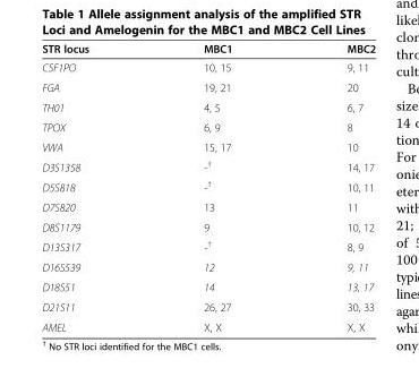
<table><thead><tr><td>STR locus</td><td>MBC1</td><td>MBC2</td></tr></thead><tbody><tr><td>CSF1PO</td><td>10, 15</td><td>9, 11</td></tr><tr><td>FGA</td><td>19, 21</td><td>20</td></tr><tr><td>TH01</td><td>4, 5</td><td>6, 7</td></tr><tr><td>TPOX</td><td>6, 9</td><td>8</td></tr><tr><td>VWA</td><td>15, 17</td><td>10</td></tr><tr><td>D3S1358</td><td>-<sup>†</sup></td><td>14, 17</td></tr><tr><td>D5S818</td><td>-<sup>†</sup></td><td>10, 11</td></tr><tr><td>D7S820</td><td>13</td><td>11</td></tr><tr><td>D8S1179</td><td>9</td><td>10, 12</td></tr><tr><td>D13S317</td><td>-<sup>†</sup></td><td>8, 9</td></tr><tr><td>D16S539</td><td>12</td><td>9, 11</td></tr><tr><td>D18S51</td><td>14</td><td>13, 17</td></tr><tr><td>D21S11</td><td>26, 27</td><td>30, 33</td></tr><tr><td>AMEL</td><td>X, X</td><td>X, X</td></tr></tbody></table>